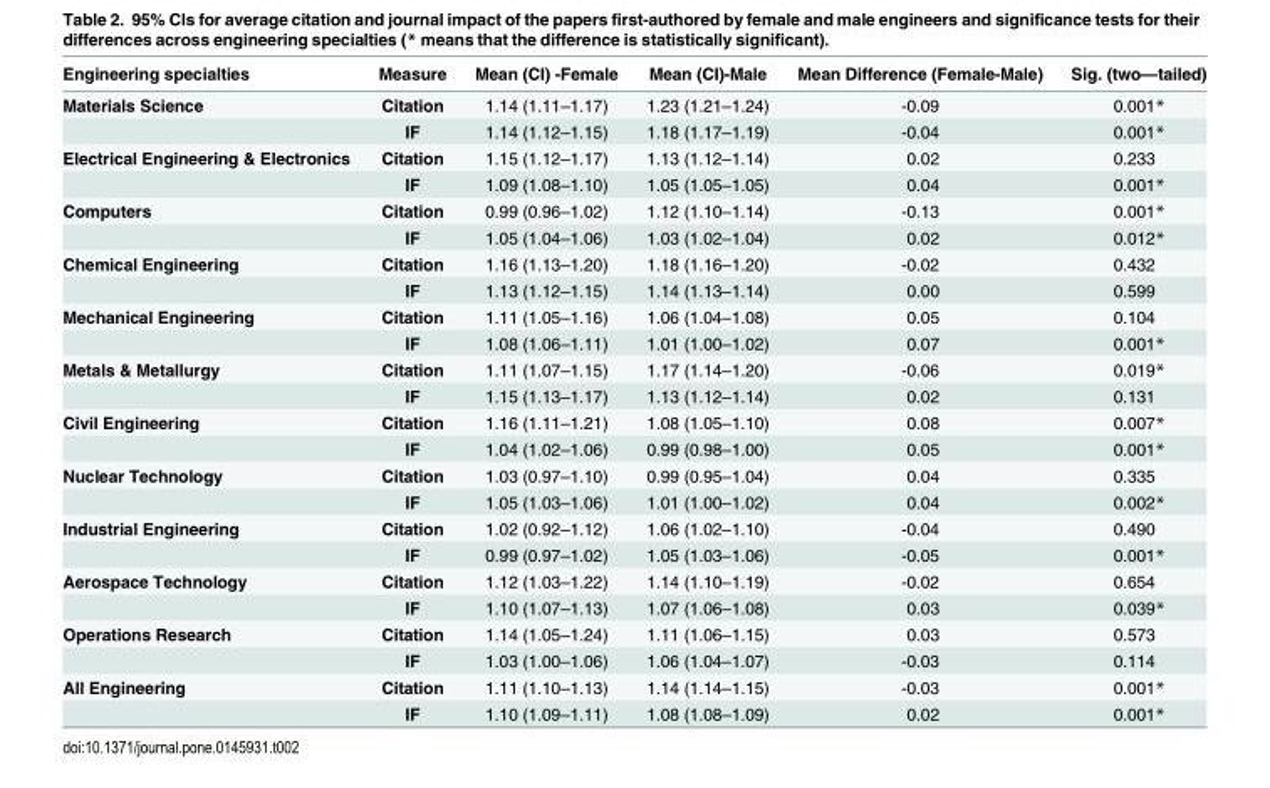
<table><thead><tr><td>Engineering specialties</td><td>Measure</td><td>Mean (CI) -Female</td><td>Mean (CI)-Male</td><td>Mean Difference (Female-Male)</td><td>Sig. (two—tailed)</td></tr></thead><tbody><tr><td rowspan="2">Materials Science</td><td>Citation</td><td>1.14 (1.11–1.17)</td><td>1.23 (1.21–1.24)</td><td>-0.09</td><td>0.001*</td></tr><tr><td>IF</td><td>1.14 (1.12–1.15)</td><td>1.18 (1.17–1.19)</td><td>-0.04</td><td>0.001*</td></tr><tr><td rowspan="2">Electrical Engineering &amp; Electronics</td><td>Citation</td><td>1.15 (1.12–1.17)</td><td>1.13 (1.12–1.14)</td><td>0.02</td><td>0.233</td></tr><tr><td>IF</td><td>1.09 (1.08–1.10)</td><td>1.05 (1.05–1.05)</td><td>0.04</td><td>0.001*</td></tr><tr><td rowspan="2">Computers</td><td>Citation</td><td>0.99 (0.96–1.02)</td><td>1.12 (1.10–1.14)</td><td>-0.13</td><td>0.001*</td></tr><tr><td>IF</td><td>1.05 (1.04–1.06)</td><td>1.03 (1.02–1.04)</td><td>0.02</td><td>0.012*</td></tr><tr><td rowspan="2">Chemical Engineering</td><td>Citation</td><td>1.16 (1.13–1.20)</td><td>1.18 (1.16–1.20)</td><td>-0.02</td><td>0.432</td></tr><tr><td>IF</td><td>1.13 (1.12–1.15)</td><td>1.14 (1.13–1.14)</td><td>0.00</td><td>0.599</td></tr><tr><td rowspan="2">Mechanical Engineering</td><td>Citation</td><td>1.11 (1.05–1.16)</td><td>1.06 (1.04–1.08)</td><td>0.05</td><td>0.104</td></tr><tr><td>IF</td><td>1.08 (1.06–1.11)</td><td>1.01 (1.00–1.02)</td><td>0.07</td><td>0.001*</td></tr><tr><td rowspan="2">Metals &amp; Metallurgy</td><td>Citation</td><td>1.11 (1.07–1.15)</td><td>1.17 (1.14–1.20)</td><td>-0.06</td><td>0.019*</td></tr><tr><td>IF</td><td>1.15 (1.13–1.17)</td><td>1.13 (1.12–1.14)</td><td>0.02</td><td>0.131</td></tr><tr><td rowspan="2">Civil Engineering</td><td>Citation</td><td>1.16 (1.11–1.21)</td><td>1.08 (1.05–1.10)</td><td>0.08</td><td>0.007*</td></tr><tr><td>IF</td><td>1.04 (1.02–1.06)</td><td>0.99 (0.98–1.00)</td><td>0.05</td><td>0.001*</td></tr><tr><td rowspan="2">Nuclear Technology</td><td>Citation</td><td>1.03 (0.97–1.10)</td><td>0.99 (0.95–1.04)</td><td>0.04</td><td>0.335</td></tr><tr><td>IF</td><td>1.05 (1.03–1.06)</td><td>1.01 (1.00–1.02)</td><td>0.04</td><td>0.002*</td></tr><tr><td rowspan="2">Industrial Engineering</td><td>Citation</td><td>1.02 (0.92–1.12)</td><td>1.06 (1.02–1.10)</td><td>-0.04</td><td>0.490</td></tr><tr><td>IF</td><td>0.99 (0.97–1.02)</td><td>1.05 (1.03–1.06)</td><td>-0.05</td><td>0.001*</td></tr><tr><td rowspan="2">Aerospace Technology</td><td>Citation</td><td>1.12 (1.03–1.22)</td><td>1.14 (1.10–1.19)</td><td>-0.02</td><td>0.654</td></tr><tr><td>IF</td><td>1.10 (1.07–1.13)</td><td>1.07 (1.06–1.08)</td><td>0.03</td><td>0.039*</td></tr><tr><td rowspan="2">Operations Research</td><td>Citation</td><td>1.14 (1.05–1.24)</td><td>1.11 (1.06–1.15)</td><td>0.03</td><td>0.573</td></tr><tr><td>IF</td><td>1.03 (1.00–1.06)</td><td>1.06 (1.04–1.07)</td><td>-0.03</td><td>0.114</td></tr><tr><td rowspan="2">All Engineering</td><td>Citation</td><td>1.11 (1.10–1.13)</td><td>1.14 (1.14–1.15)</td><td>-0.03</td><td>0.001*</td></tr><tr><td>IF</td><td>1.10 (1.09–1.11)</td><td>1.08 (1.08–1.09)</td><td>0.02</td><td>0.001*</td></tr></tbody></table>